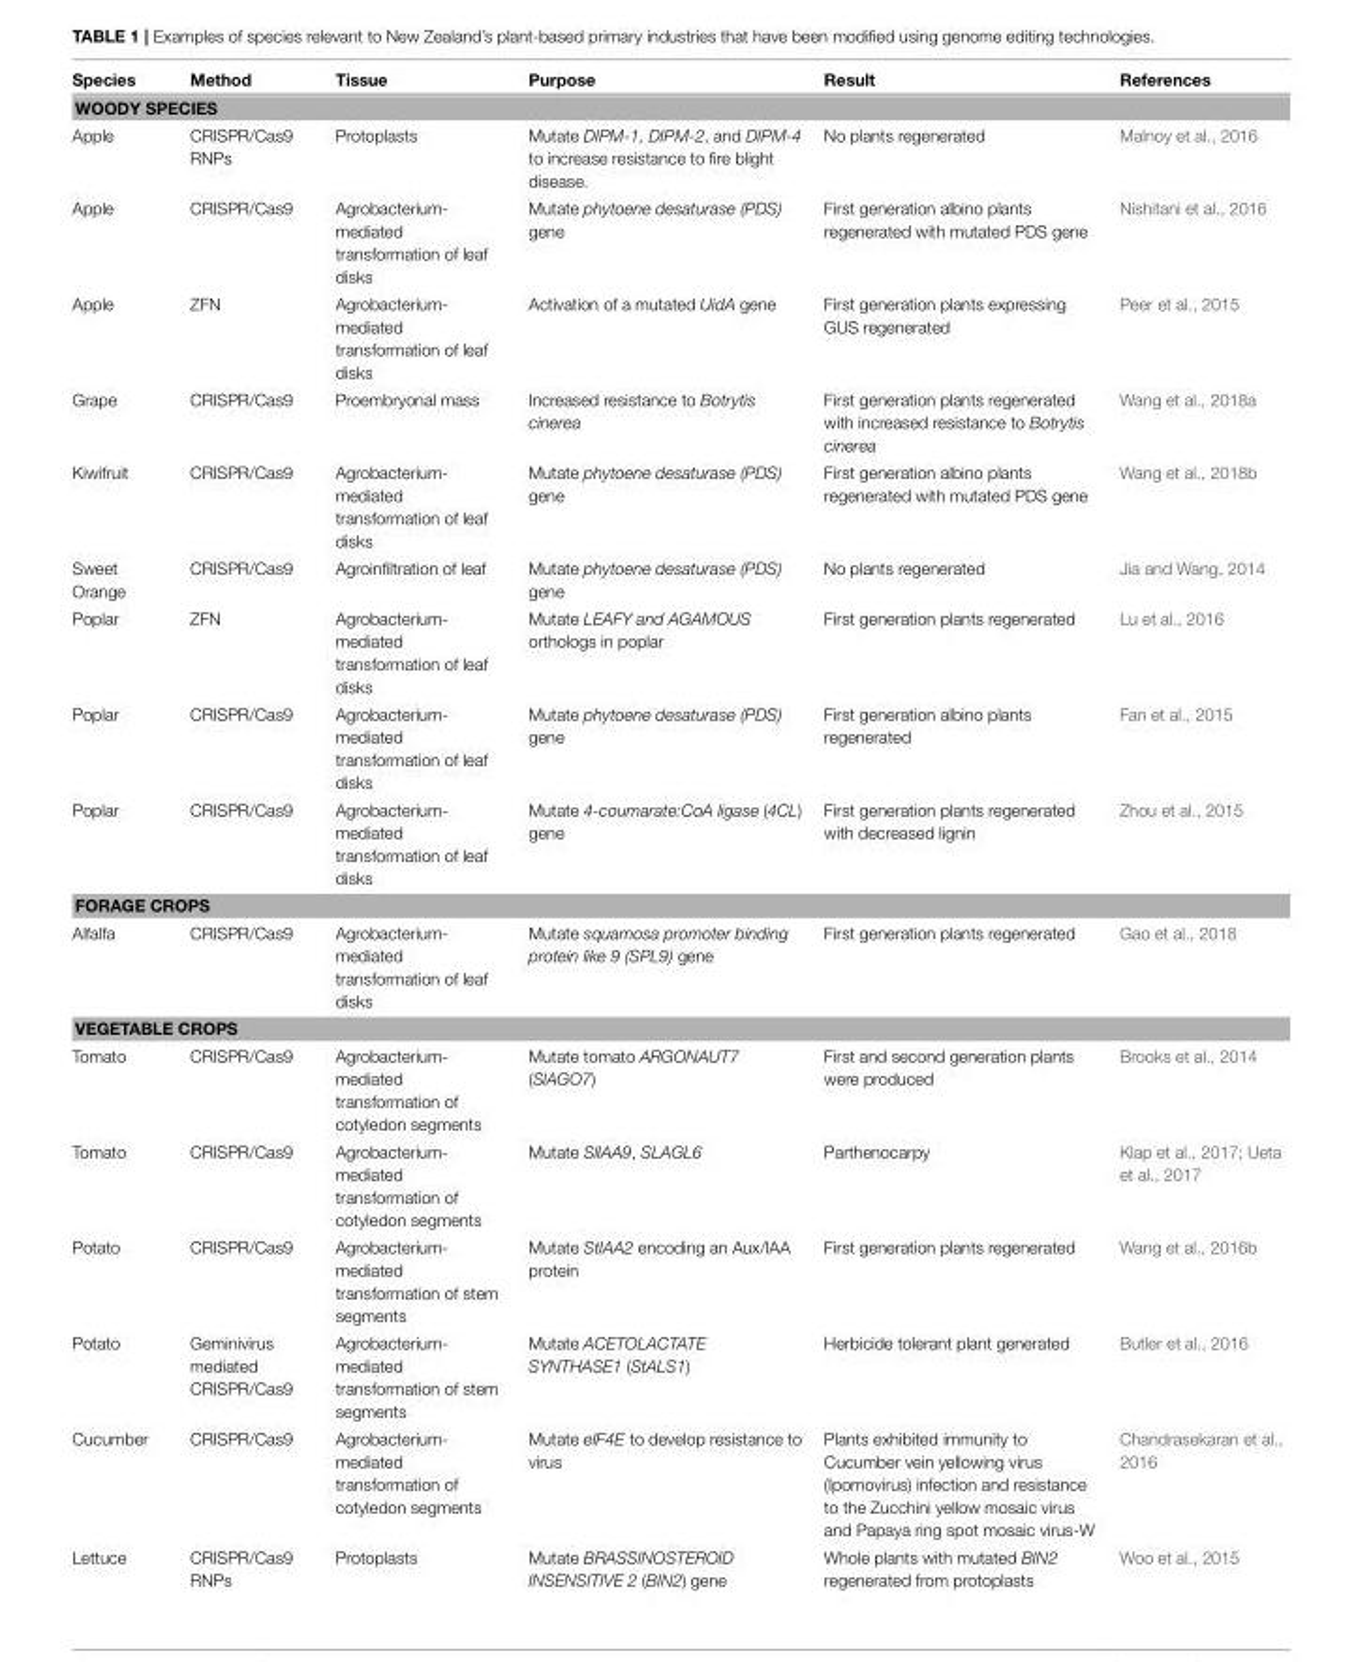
<table><thead><tr><td>Species</td><td>Method</td><td>Tissue</td><td>Purpose</td><td>Result</td><td>References</td></tr></thead><tbody><tr><td colspan="6">WOODY SPECIES</td></tr><tr><td>Apple</td><td>CRISPR/Cas9 RNPs</td><td>Protoplasts</td><td>Mutate DIPM-1, DIPM-2, and DIPM-4 to increase resistance to fire blight disease.</td><td>No plants regenerated</td><td>Malnoy et al., 2016</td></tr><tr><td>Apple</td><td>CRISPR/Cas9</td><td>Agrobacterium- mediated transformation of leaf disks</td><td>Mutate phytoene desaturase (PDS) gene</td><td>First generation albino plants regenerated with mutated PDS gene</td><td>Nishitani et al., 2016</td></tr><tr><td>Apple</td><td>ZFN</td><td>Agrobacterium- mediated transformation of leaf disks</td><td>Activation of a mutated UidA gene</td><td>First generation plants expressing GUS regenerated</td><td>Peer et al., 2015</td></tr><tr><td>Grape</td><td>CRISPR/Cas9</td><td>Proembryonal mass</td><td>Increased resistance to Botrytis cinerea</td><td>First generation plants regenerated with increased resistance to Botrytis cinerea</td><td>Wang et al., 2018a</td></tr><tr><td>Kiwifruit</td><td>CRISPR/Cas9</td><td>Agrobacterium- mediated transformation of leaf disks</td><td>Mutate phytoene desaturase (PDS) gene</td><td>First generation albino plants regenerated with mutated PDS gene</td><td>Wang et al., 2018b</td></tr><tr><td>Sweet Orange</td><td>CRISPR/Cas9</td><td>Agroinfiltration of leaf</td><td>Mutate phytoene desaturase (PDS) gene</td><td>No plants regenerated</td><td>Jia and Wang, 2014</td></tr><tr><td>Poplar</td><td>ZFN</td><td>Agrobacterium- mediated transformation of leaf disks</td><td>Mutate LEAFY and AGAMOUS orthologs in poplar</td><td>First generation plants regenerated</td><td>Lu et al., 2016</td></tr><tr><td>Poplar</td><td>CRISPR/Cas9</td><td>Agrobacterium- mediated transformation of leaf disks</td><td>Mutate phytoene desaturase (PDS) gene</td><td>First generation albino plants regenerated</td><td>Fan et al., 2015</td></tr><tr><td>Poplar</td><td>CRISPR/Cas9</td><td>Agrobacterium- mediated transformation of leaf disks</td><td>Mutate 4-coumarate:CoA ligase (4CL) gene</td><td>First generation plants regenerated with decreased lignin</td><td>Zhou et al., 2015</td></tr><tr><td colspan="6">FORAGE CROPS</td></tr><tr><td>Alfalfa</td><td>CRISPR/Cas9</td><td>Agrobacterium- mediated transformation of leaf disks</td><td>Mutate squamosa promoter binding protein like 9 (SPL9) gene</td><td>First generation plants regenerated</td><td>Gao et al., 2018</td></tr><tr><td colspan="6">VEGETABLE CROPS</td></tr><tr><td>Tomato</td><td>CRISPR/Cas9</td><td>Agrobacterium- mediated transformation of cotyledon segments</td><td>Mutate tomato ARGONAUT7 (SlAGO7)</td><td>First and second generation plants were produced</td><td>Brooks et al., 2014</td></tr><tr><td>Tomato</td><td>CRISPR/Cas9</td><td>Agrobacterium- mediated transformation of cotyledon segments</td><td>Mutate SlIAA9, SLAGL6</td><td>Parthenocarpy</td><td>Klap et al., 2017; Ueta et al., 2017</td></tr><tr><td>Potato</td><td>CRISPR/Cas9</td><td>Agrobacterium- mediated transformation of stem segments</td><td>Mutate StIAA2 encoding an Aux/IAA protein</td><td>First generation plants regenerated</td><td>Wang et al., 2016b</td></tr><tr><td>Potato</td><td>Geminivirus mediated CRISPR/Cas9</td><td>Agrobacterium- mediated transformation of stem segments</td><td>Mutate ACETOLACTATE SYNTHASE1 (StALS1)</td><td>Herbicide tolerant plant generated</td><td>Butler et al., 2016</td></tr><tr><td>Cucumber</td><td>CRISPR/Cas9</td><td>Agrobacterium- mediated transformation of cotyledon segments</td><td>Mutate eIF4E to develop resistance to virus</td><td>Plants exhibited immunity to Cucumber vein yellowing virus (Ipomovirus) infection and resistance to the Zucchini yellow mosaic virus and Papaya ring spot mosaic virus-W</td><td>Chandrasekaran et al., 2016</td></tr><tr><td>Lettuce</td><td>CRISPR/Cas9 RNPs</td><td>Protoplasts</td><td>Mutate BRASSINOSTEROID INSENSITIVE 2 (BIN2) gene</td><td>Whole plants with mutated BIN2 regenerated from protoplasts</td><td>Woo et al., 2015</td></tr></tbody></table>